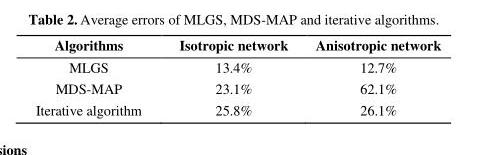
<table><thead><tr><td>Algorithms</td><td>Isotropic network</td><td>Anisotropic network</td></tr></thead><tbody><tr><td>MLGS</td><td>13.4%</td><td>12.7%</td></tr><tr><td>MDS-MAP</td><td>23.1%</td><td>62.1%</td></tr><tr><td>Iterative algorithm</td><td>25.8%</td><td>26.1%</td></tr></tbody></table>